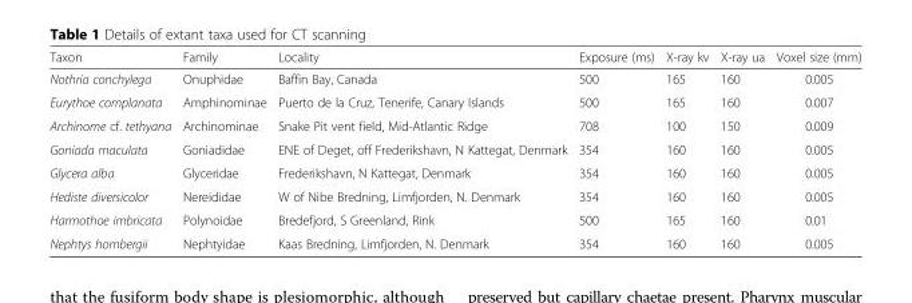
<table><thead><tr><td>Taxon</td><td>Family</td><td>Locality</td><td>Exposure (ms)</td><td>X-ray kv</td><td>X-ray ua</td><td>Voxel size (mm)</td></tr></thead><tbody><tr><td>Nothria conchylega</td><td>Onuphidae</td><td>Baffin Bay, Canada</td><td>500</td><td>165</td><td>160</td><td>0.005</td></tr><tr><td>Eurythoe complanata</td><td>Amphinominae</td><td>Puerto de la Cruz, Tenerife, Canary Islands</td><td>500</td><td>165</td><td>160</td><td>0.007</td></tr><tr><td>Archinome cf. tethyana</td><td>Archinominae</td><td>Snake Pit vent field, Mid-Atlantic Ridge</td><td>708</td><td>100</td><td>150</td><td>0.009</td></tr><tr><td>Goniada maculata</td><td>Goniadidae</td><td>ENE of Deget, off Frederikshavn, N Kattegat, Denmark</td><td>354</td><td>160</td><td>160</td><td>0.005</td></tr><tr><td>Glycera alba</td><td>Glyceridae</td><td>Frederikshavn, N Kattegat, Denmark</td><td>354</td><td>160</td><td>160</td><td>0.005</td></tr><tr><td>Hediste diversicolor</td><td>Nereididae</td><td>W of Nibe Bredning, Limfjorden, N. Denmark</td><td>354</td><td>160</td><td>160</td><td>0.005</td></tr><tr><td>Harmothoe imbricata</td><td>Polynoidae</td><td>Bredefjord, S Greenland, Rink</td><td>500</td><td>165</td><td>160</td><td>0.01</td></tr><tr><td>Nephtys hombergii</td><td>Nephtyidae</td><td>Kaas Bredning, Limfjorden, N. Denmark</td><td>354</td><td>160</td><td>160</td><td>0.005</td></tr></tbody></table>